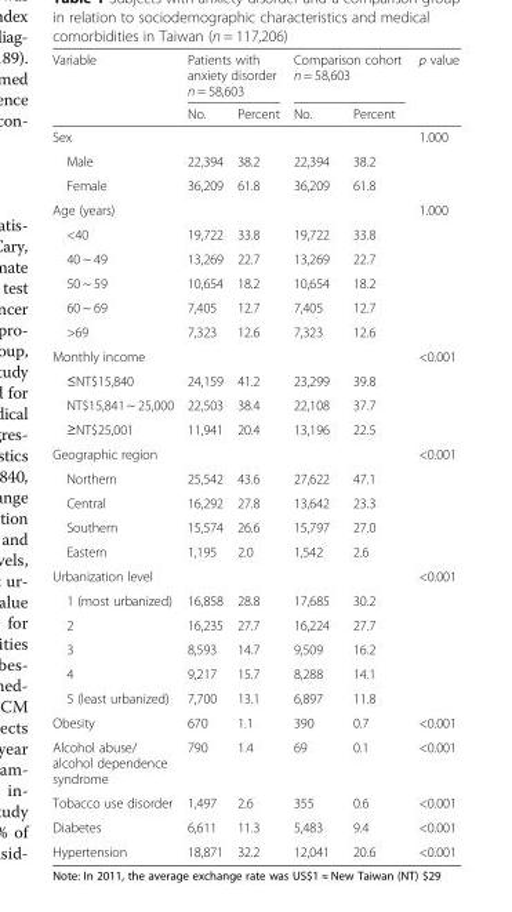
<table><thead><tr><td rowspan="2">Variable</td><td colspan="2">Patients with anxiety disorder n = 58,603</td><td colspan="2">Comparison cohort n = 58,603</td><td rowspan="2">p value</td></tr><tr><td>No.</td><td>Percent</td><td>No.</td><td>Percent</td></tr></thead><tbody><tr><td>Sex</td><td></td><td></td><td></td><td></td><td>1.000</td></tr><tr><td>Male</td><td>22,394</td><td>38.2</td><td>22,394</td><td>38.2</td><td></td></tr><tr><td>Female</td><td>36,209</td><td>61.8</td><td>36,209</td><td>61.8</td><td></td></tr><tr><td>Age (years)</td><td></td><td></td><td></td><td></td><td>1.000</td></tr><tr><td>&lt;40</td><td>19,722</td><td>33.8</td><td>19,722</td><td>33.8</td><td></td></tr><tr><td>40 ~ 49</td><td>13,269</td><td>22.7</td><td>13,269</td><td>22.7</td><td></td></tr><tr><td>50 ~ 59</td><td>10,654</td><td>18.2</td><td>10,654</td><td>18.2</td><td></td></tr><tr><td>60 ~ 69</td><td>7,405</td><td>12.7</td><td>7,405</td><td>12.7</td><td></td></tr><tr><td>&gt;69</td><td>7,323</td><td>12.6</td><td>7,323</td><td>12.6</td><td></td></tr><tr><td>Monthly income</td><td></td><td></td><td></td><td></td><td>&lt;0.001</td></tr><tr><td>≤NT$15,840</td><td>24,159</td><td>41.2</td><td>23,299</td><td>39.8</td><td></td></tr><tr><td>NT$15,841 ~ 25,000</td><td>22,503</td><td>38.4</td><td>22,108</td><td>37.7</td><td></td></tr><tr><td>≥NT$25,001</td><td>11,941</td><td>20.4</td><td>13,196</td><td>22.5</td><td></td></tr><tr><td>Geographic region</td><td></td><td></td><td></td><td></td><td>&lt;0.001</td></tr><tr><td>Northern</td><td>25,542</td><td>43.6</td><td>27,622</td><td>47.1</td><td></td></tr><tr><td>Central</td><td>16,292</td><td>27.8</td><td>13,642</td><td>23.3</td><td></td></tr><tr><td>Southern</td><td>15,574</td><td>26.6</td><td>15,797</td><td>27.0</td><td></td></tr><tr><td>Eastern</td><td>1,195</td><td>2.0</td><td>1,542</td><td>2.6</td><td></td></tr><tr><td>Urbanization level</td><td></td><td></td><td></td><td></td><td>&lt;0.001</td></tr><tr><td>1 (most urbanized)</td><td>16,858</td><td>28.8</td><td>17,685</td><td>30.2</td><td></td></tr><tr><td>2</td><td>16,235</td><td>27.7</td><td>16,224</td><td>27.7</td><td></td></tr><tr><td>3</td><td>8,593</td><td>14.7</td><td>9,509</td><td>16.2</td><td></td></tr><tr><td>4</td><td>9,217</td><td>15.7</td><td>8,288</td><td>14.1</td><td></td></tr><tr><td>5 (least urbanized)</td><td>7,700</td><td>13.1</td><td>6,897</td><td>11.8</td><td></td></tr><tr><td>Obesity</td><td>670</td><td>1.1</td><td>390</td><td>0.7</td><td>&lt;0.001</td></tr><tr><td>Alcohol abuse/ alcohol dependence syndrome</td><td>790</td><td>1.4</td><td>69</td><td>0.1</td><td>&lt;0.001</td></tr><tr><td>Tobacco use disorder</td><td>1,497</td><td>2.6</td><td>355</td><td>0.6</td><td>&lt;0.001</td></tr><tr><td>Diabetes</td><td>6,611</td><td>11.3</td><td>5,483</td><td>9.4</td><td>&lt;0.001</td></tr><tr><td>Hypertension</td><td>18,871</td><td>32.2</td><td>12,041</td><td>20.6</td><td>&lt;0.001</td></tr></tbody></table>